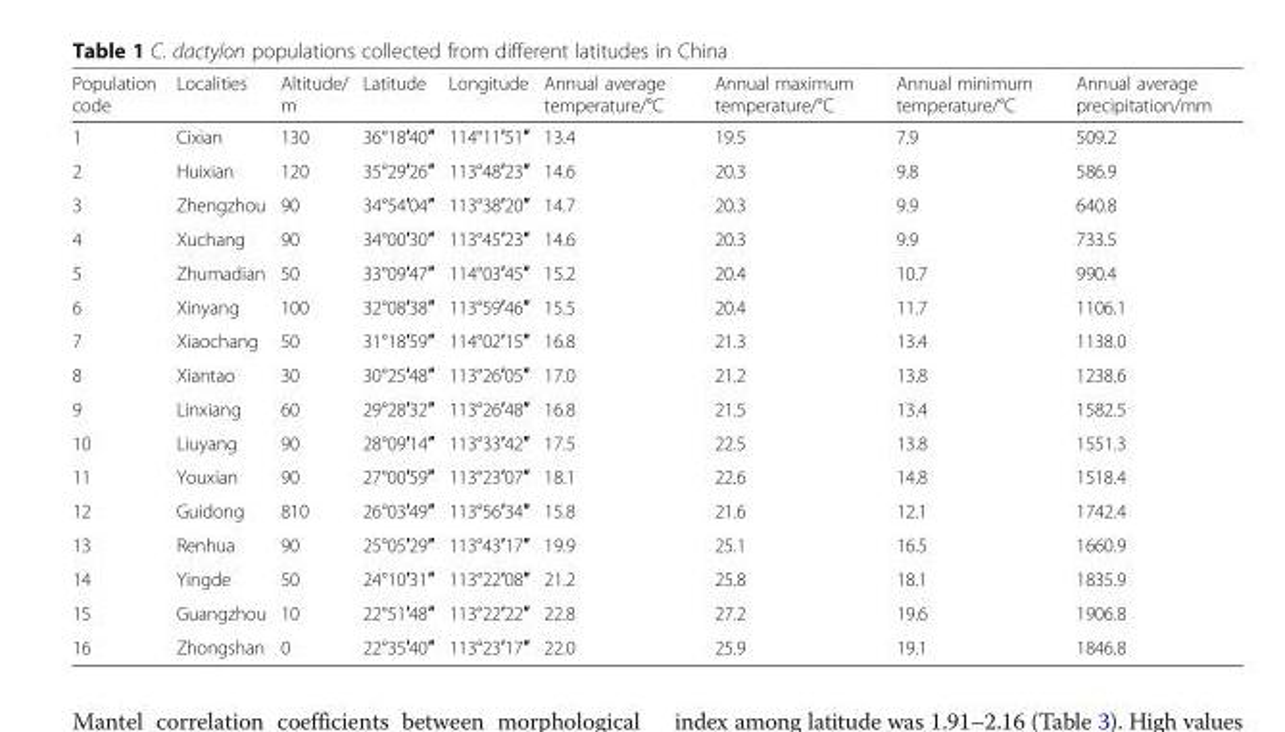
<table><thead><tr><td>Population code</td><td>Localities</td><td>Altitude/ m</td><td>Latitude</td><td>Longitude</td><td>Annual average temperature/°C</td><td>Annual maximum temperature/°C</td><td>Annual minimum temperature/°C</td><td>Annual average precipitation/mm</td></tr></thead><tbody><tr><td>1</td><td>Cixian</td><td>130</td><td>36°18′40″</td><td>114°11′51″</td><td>13.4</td><td>19.5</td><td>7.9</td><td>509.2</td></tr><tr><td>2</td><td>Huixian</td><td>120</td><td>35°29′26″</td><td>113°48′23″</td><td>14.6</td><td>20.3</td><td>9.8</td><td>586.9</td></tr><tr><td>3</td><td>Zhengzhou</td><td>90</td><td>34°54′04″</td><td>113°38′20″</td><td>14.7</td><td>20.3</td><td>9.9</td><td>640.8</td></tr><tr><td>4</td><td>Xuchang</td><td>90</td><td>34°00′30″</td><td>113°45′23″</td><td>14.6</td><td>20.3</td><td>9.9</td><td>733.5</td></tr><tr><td>5</td><td>Zhumadian</td><td>50</td><td>33°09′47″</td><td>114°03′45″</td><td>15.2</td><td>20.4</td><td>10.7</td><td>990.4</td></tr><tr><td>6</td><td>Xinyang</td><td>100</td><td>32°08′38″</td><td>113°59′46″</td><td>15.5</td><td>20.4</td><td>11.7</td><td>1106.1</td></tr><tr><td>7</td><td>Xiaochang</td><td>50</td><td>31°18′59″</td><td>114°02′15″</td><td>16.8</td><td>21.3</td><td>13.4</td><td>1138.0</td></tr><tr><td>8</td><td>Xiantao</td><td>30</td><td>30°25′48″</td><td>113°26′05″</td><td>17.0</td><td>21.2</td><td>13.8</td><td>1238.6</td></tr><tr><td>9</td><td>Linxiang</td><td>60</td><td>29°28′32″</td><td>113°26′48″</td><td>16.8</td><td>21.5</td><td>13.4</td><td>1582.5</td></tr><tr><td>10</td><td>Liuyang</td><td>90</td><td>28°09′14″</td><td>113°33′42″</td><td>17.5</td><td>22.5</td><td>13.8</td><td>1551.3</td></tr><tr><td>11</td><td>Youxian</td><td>90</td><td>27°00′59″</td><td>113°23′07″</td><td>18.1</td><td>22.6</td><td>14.8</td><td>1518.4</td></tr><tr><td>12</td><td>Guidong</td><td>810</td><td>26°03′49″</td><td>113°56′34″</td><td>15.8</td><td>21.6</td><td>12.1</td><td>1742.4</td></tr><tr><td>13</td><td>Renhua</td><td>90</td><td>25°05′29″</td><td>113°43′17″</td><td>19.9</td><td>25.1</td><td>16.5</td><td>1660.9</td></tr><tr><td>14</td><td>Yingde</td><td>50</td><td>24°10′31″</td><td>113°22′08″</td><td>21.2</td><td>25.8</td><td>18.1</td><td>1835.9</td></tr><tr><td>15</td><td>Guangzhou</td><td>10</td><td>22°51′48″</td><td>113°22′22″</td><td>22.8</td><td>27.2</td><td>19.6</td><td>1906.8</td></tr><tr><td>16</td><td>Zhongshan</td><td>0</td><td>22°35′40″</td><td>113°23′17″</td><td>22.0</td><td>25.9</td><td>19.1</td><td>1846.8</td></tr></tbody></table>